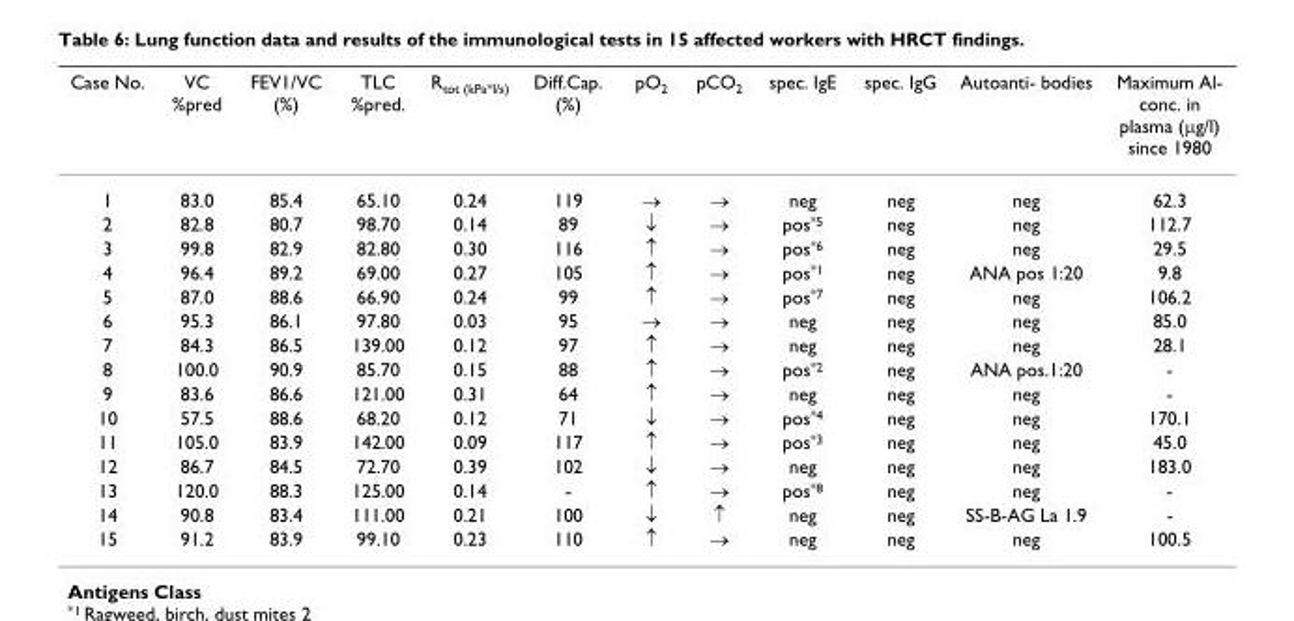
<table><thead><tr><td>Case No.</td><td>VC %pred</td><td>FEV1/VC (%)</td><td>TLC %pred.</td><td>R<sub>tot (kPa*l/s)</sub></td><td>Diff.Cap. (%)</td><td>pO<sub>2</sub></td><td>pCO<sub>2</sub></td><td>spec. IgE</td><td>spec. IgG</td><td>Autoanti- bodies</td><td>Maximum Al- conc. in plasma (µg/l) since 1980</td></tr></thead><tbody><tr><td>1</td><td>83.0</td><td>85.4</td><td>65.10</td><td>0.24</td><td>119</td><td>→</td><td>→</td><td>neg</td><td>neg</td><td>neg</td><td>62.3</td></tr><tr><td>2</td><td>82.8</td><td>80.7</td><td>98.70</td><td>0.14</td><td>89</td><td>↓</td><td>→</td><td>pos<sup>*5</sup></td><td>neg</td><td>neg</td><td>112.7</td></tr><tr><td>3</td><td>99.8</td><td>82.9</td><td>82.80</td><td>0.30</td><td>116</td><td>↑</td><td>→</td><td>pos<sup>*6</sup></td><td>neg</td><td>neg</td><td>29.5</td></tr><tr><td>4</td><td>96.4</td><td>89.2</td><td>69.00</td><td>0.27</td><td>105</td><td>↑</td><td>→</td><td>pos<sup>*1</sup></td><td>neg</td><td>ANA pos 1:20</td><td>9.8</td></tr><tr><td>5</td><td>87.0</td><td>88.6</td><td>66.90</td><td>0.24</td><td>99</td><td>↑</td><td>→</td><td>pos<sup>*7</sup></td><td>neg</td><td>neg</td><td>106.2</td></tr><tr><td>6</td><td>95.3</td><td>86.1</td><td>97.80</td><td>0.03</td><td>95</td><td>→</td><td>→</td><td>neg</td><td>neg</td><td>neg</td><td>85.0</td></tr><tr><td>7</td><td>84.3</td><td>86.5</td><td>139.00</td><td>0.12</td><td>97</td><td>↑</td><td>→</td><td>neg</td><td>neg</td><td>neg</td><td>28.1</td></tr><tr><td>8</td><td>100.0</td><td>90.9</td><td>85.70</td><td>0.15</td><td>88</td><td>↑</td><td>→</td><td>pos<sup>*2</sup></td><td>neg</td><td>ANA pos.1:20</td><td>-</td></tr><tr><td>9</td><td>83.6</td><td>86.6</td><td>121.00</td><td>0.31</td><td>64</td><td>↑</td><td>→</td><td>neg</td><td>neg</td><td>neg</td><td>-</td></tr><tr><td>10</td><td>57.5</td><td>88.6</td><td>68.20</td><td>0.12</td><td>71</td><td>↓</td><td>→</td><td>pos<sup>*4</sup></td><td>neg</td><td>neg</td><td>170.1</td></tr><tr><td>11</td><td>105.0</td><td>83.9</td><td>142.00</td><td>0.09</td><td>117</td><td>↑</td><td>→</td><td>pos<sup>*3</sup></td><td>neg</td><td>neg</td><td>45.0</td></tr><tr><td>12</td><td>86.7</td><td>84.5</td><td>72.70</td><td>0.39</td><td>102</td><td>↓</td><td>→</td><td>neg</td><td>neg</td><td>neg</td><td>183.0</td></tr><tr><td>13</td><td>120.0</td><td>88.3</td><td>125.00</td><td>0.14</td><td>-</td><td>↑</td><td>→</td><td>pos<sup>*8</sup></td><td>neg</td><td>neg</td><td>-</td></tr><tr><td>14</td><td>90.8</td><td>83.4</td><td>111.00</td><td>0.21</td><td>100</td><td>↓</td><td>↑</td><td>neg</td><td>neg</td><td>SS-B-AG La 1.9</td><td>-</td></tr><tr><td>15</td><td>91.2</td><td>83.9</td><td>99.10</td><td>0.23</td><td>110</td><td>↑</td><td>→</td><td>neg</td><td>neg</td><td>neg</td><td>100.5</td></tr></tbody></table>